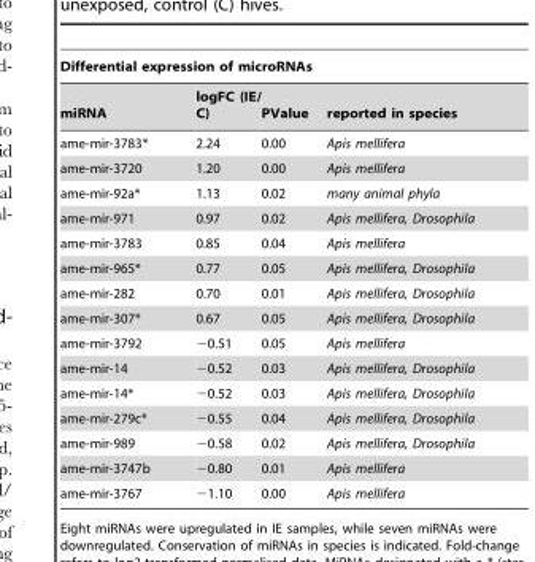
<table><thead><tr><td colspan="4">Differential expression of microRNAs</td></tr><tr><td>miRNA</td><td>logFC (IE/ C)</td><td>PValue</td><td>reported in species</td></tr></thead><tbody><tr><td>ame-mir-3783*</td><td>2.24</td><td>0.00</td><td>Apis mellifera</td></tr><tr><td>ame-mir-3720</td><td>1.20</td><td>0.00</td><td>Apis mellifera</td></tr><tr><td>ame-mir-92a*</td><td>1.13</td><td>0.02</td><td>many animal phyla</td></tr><tr><td>ame-mir-971</td><td>0.97</td><td>0.02</td><td>Apis mellifera, Drosophila</td></tr><tr><td>ame-mir-3783</td><td>0.85</td><td>0.04</td><td>Apis mellifera</td></tr><tr><td>ame-mir-965*</td><td>0.77</td><td>0.05</td><td>Apis mellifera, Drosophila</td></tr><tr><td>ame-mir-282</td><td>0.70</td><td>0.01</td><td>Apis mellifera, Drosophila</td></tr><tr><td>ame-mir-307*</td><td>0.67</td><td>0.05</td><td>Apis mellifera, Drosophila</td></tr><tr><td>ame-mir-3792</td><td>−0.51</td><td>0.05</td><td>Apis mellifera</td></tr><tr><td>ame-mir-14</td><td>−0.52</td><td>0.03</td><td>Apis mellifera, Drosophila</td></tr><tr><td>ame-mir-14*</td><td>−0.52</td><td>0.03</td><td>Apis mellifera, Drosophila</td></tr><tr><td>ame-mir-279c*</td><td>−0.55</td><td>0.04</td><td>Apis mellifera, Drosophila</td></tr><tr><td>ame-mir-989</td><td>−0.58</td><td>0.02</td><td>Apis mellifera, Drosophila</td></tr><tr><td>ame-mir-3747b</td><td>−0.80</td><td>0.01</td><td>Apis mellifera</td></tr><tr><td>ame-mir-3767</td><td>−1.10</td><td>0.00</td><td>Apis mellifera</td></tr></tbody></table>